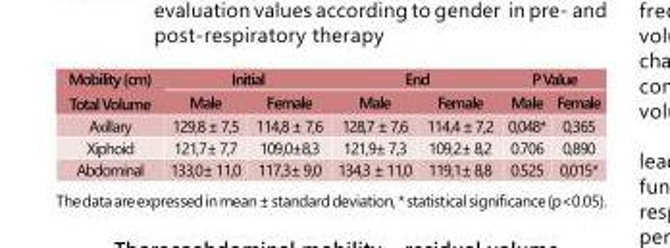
<table><tbody><tr><td rowspan="2">Mobility (cm) Total Volume</td><td colspan="2">Initial</td><td colspan="2">End</td><td colspan="2">P Value</td></tr><tr><td>Male</td><td>Female</td><td>Male</td><td>Female</td><td>Male</td><td>Female</td></tr><tr><td>Axillary</td><td>129,8 ± 7,5</td><td>114,8 ± 7,6</td><td>128,7 ± 7,6</td><td>114,4 ± 7,2</td><td>0,048*</td><td>0,365</td></tr><tr><td>Xiphoid</td><td>121,7± 7,7</td><td>109,0±8,3</td><td>121,9± 7,3</td><td>109,2± 8,2</td><td>0.706</td><td>0,890</td></tr><tr><td>Abdominal</td><td>133,0± 11,0</td><td>117,3± 9,0</td><td>134,3 ± 11,0</td><td>119,1± 8,8</td><td>0.525</td><td>0,015*</td></tr></tbody></table>